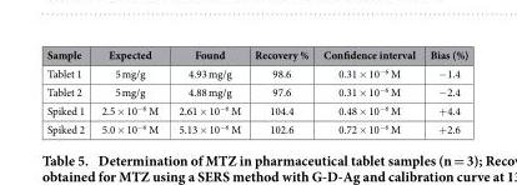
<table><thead><tr><td>Sample</td><td>Expected</td><td>Found</td><td>Recovery %</td><td>Confidence interval</td><td>Bias (%)</td></tr></thead><tbody><tr><td>Tablet 1</td><td>5 mg/g</td><td>4.93 mg/g</td><td>98.6</td><td>0.31 × 10<sup>−6</sup> M</td><td>− 1.4</td></tr><tr><td>Tablet 2</td><td>5 mg/g</td><td>4.88 mg/g</td><td>97.6</td><td>0.31 × 10<sup>−6</sup> M</td><td>− 2.4</td></tr><tr><td>Spiked 1</td><td>2.5 × 10<sup>−6</sup> M</td><td>2.61 × 10<sup>−6</sup> M</td><td>104.4</td><td>0.48 × 10<sup>−6</sup> M</td><td>+ 4.4</td></tr><tr><td>Spiked 2</td><td>5.0 × 10<sup>−6</sup> M</td><td>5.13 × 10<sup>−6</sup> M</td><td>102.6</td><td>0.72 × 10<sup>−6</sup> M</td><td>+ 2.6</td></tr></tbody></table>